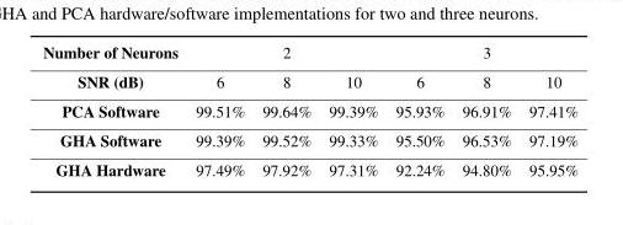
<table><tbody><tr><td>Number of Neurons</td><td colspan="3">2</td><td colspan="3">3</td></tr><tr><td>SNR (dB)</td><td>6</td><td>8</td><td>10</td><td>6</td><td>8</td><td>10</td></tr><tr><td>PCA Software</td><td>99.51%</td><td>99.64%</td><td>99.39%</td><td>95.93%</td><td>96.91%</td><td>97.41%</td></tr><tr><td>GHA Software</td><td>99.39%</td><td>99.52%</td><td>99.33%</td><td>95.50%</td><td>96.53%</td><td>97.19%</td></tr><tr><td>GHA Hardware</td><td>97.49%</td><td>97.92%</td><td>97.31%</td><td>92.24%</td><td>94.80%</td><td>95.95%</td></tr></tbody></table>